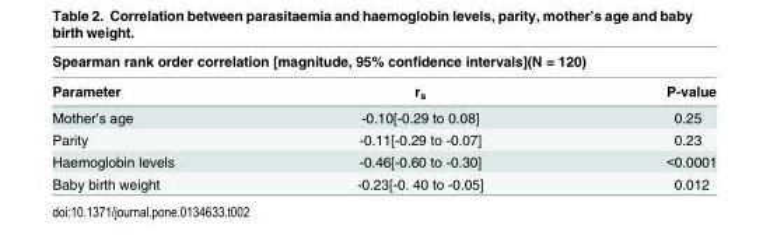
<table><thead><tr><td colspan="3">Spearman rank order correlation [magnitude, 95% confidence intervals](N = 120)</td></tr><tr><td>Parameter</td><td>r<sub>s</sub></td><td>P-value</td></tr></thead><tbody><tr><td>Mother’s age</td><td>-0.10[-0.29 to 0.08]</td><td>0.25</td></tr><tr><td>Parity</td><td>-0.11[-0.29 to -0.07]</td><td>0.23</td></tr><tr><td>Haemoglobin levels</td><td>-0.46[-0.60 to -0.30]</td><td>&lt;0.0001</td></tr><tr><td>Baby birth weight</td><td>-0.23[-0. 40 to -0.05]</td><td>0.012</td></tr></tbody></table>